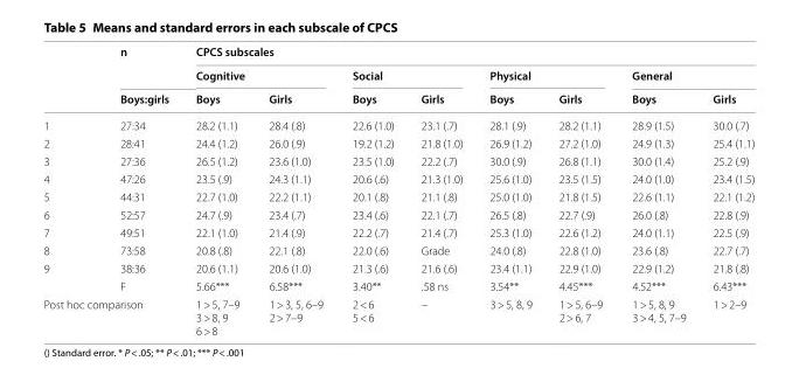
<table><thead><tr><td rowspan="3"></td><td rowspan="3">n Boys:girls</td><td colspan="8">CPCS subscales</td></tr><tr><td colspan="2">Cognitive</td><td colspan="2">Social</td><td colspan="2">Physical</td><td colspan="2">General</td></tr><tr><td>Boys</td><td>Girls</td><td>Boys</td><td>Girls</td><td>Boys</td><td>Girls</td><td>Boys</td><td>Girls</td></tr></thead><tbody><tr><td>1</td><td>27:34</td><td>28.2 (1.1)</td><td>28.4 (.8)</td><td>22.6 (1.0)</td><td>23.1 (.7)</td><td>28.1 (.9)</td><td>28.2 (1.1)</td><td>28.9 (1.5)</td><td>30.0 (.7)</td></tr><tr><td>2</td><td>28:41</td><td>24.4 (1.2)</td><td>26.0 (.9)</td><td>19.2 (1.2)</td><td>21.8 (1.0)</td><td>26.9 (1.2)</td><td>27.2 (1.0)</td><td>24.9 (1.3)</td><td>25.4 (1.1)</td></tr><tr><td>3</td><td>27:36</td><td>26.5 (1.2)</td><td>23.6 (1.0)</td><td>23.5 (1.0)</td><td>22.2 (.7)</td><td>30.0 (.9)</td><td>26.8 (1.1)</td><td>30.0 (1.4)</td><td>25.2 (.9)</td></tr><tr><td>4</td><td>47:26</td><td>23.5 (.9)</td><td>24.3 (1.1)</td><td>20.6 (.6)</td><td>21.3 (1.0)</td><td>25.6 (1.0)</td><td>23.5 (1.5)</td><td>24.0 (1.0)</td><td>23.4 (1.5)</td></tr><tr><td>5</td><td>44:31</td><td>22.7 (1.0)</td><td>22.2 (1.1)</td><td>20.1 (.8)</td><td>21.1 (.8)</td><td>25.0 (1.0)</td><td>21.8 (1.5)</td><td>22.6 (1.1)</td><td>22.1 (1.2)</td></tr><tr><td>6</td><td>52:57</td><td>24.7 (.9)</td><td>23.4 (.7)</td><td>23.4 (.6)</td><td>22.1 (.7)</td><td>26.5 (.8)</td><td>22.7 (.9)</td><td>26.0 (.8)</td><td>22.8 (.9)</td></tr><tr><td>7</td><td>49:51</td><td>22.1 (1.0)</td><td>21.4 (.9)</td><td>22.2 (.7)</td><td>21.4 (.7)</td><td>25.3 (1.0)</td><td>22.6 (1.2)</td><td>24.0 (1.1)</td><td>22.5 (.9)</td></tr><tr><td>8</td><td>73:58</td><td>20.8 (.8)</td><td>22.1 (.8)</td><td>22.0 (.6)</td><td>Grade</td><td>24.0 (.8)</td><td>22.8 (1.0)</td><td>23.6 (.8)</td><td>22.7 (.7)</td></tr><tr><td rowspan="2">9</td><td>38:36</td><td>20.6 (1.1)</td><td>20.6 (1.0)</td><td>21.3 (.6)</td><td>21.6 (.6)</td><td>23.4 (1.1)</td><td>22.9 (1.0)</td><td>22.9 (1.2)</td><td>21.8 (.8)</td></tr><tr><td>F</td><td>5.66***</td><td>6.58***</td><td>3.40**</td><td>.58 ns</td><td>3.54**</td><td>4.45***</td><td>4.52***</td><td>6.43***</td></tr><tr><td colspan="2">Post hoc comparison</td><td>1 &gt; 5, 7–9 3 &gt; 8, 9 6 &gt; 8</td><td>1 &gt; 3, 5, 6–9 2 &gt; 7–9</td><td>2 &lt; 6 5 &lt; 6</td><td>–</td><td>3 &gt; 5, 8, 9</td><td>1 &gt; 5, 6–9 2 &gt; 6, 7</td><td>1 &gt; 5, 8, 9 3 &gt; 4, 5, 7–9</td><td>1 &gt; 2–9</td></tr></tbody></table>